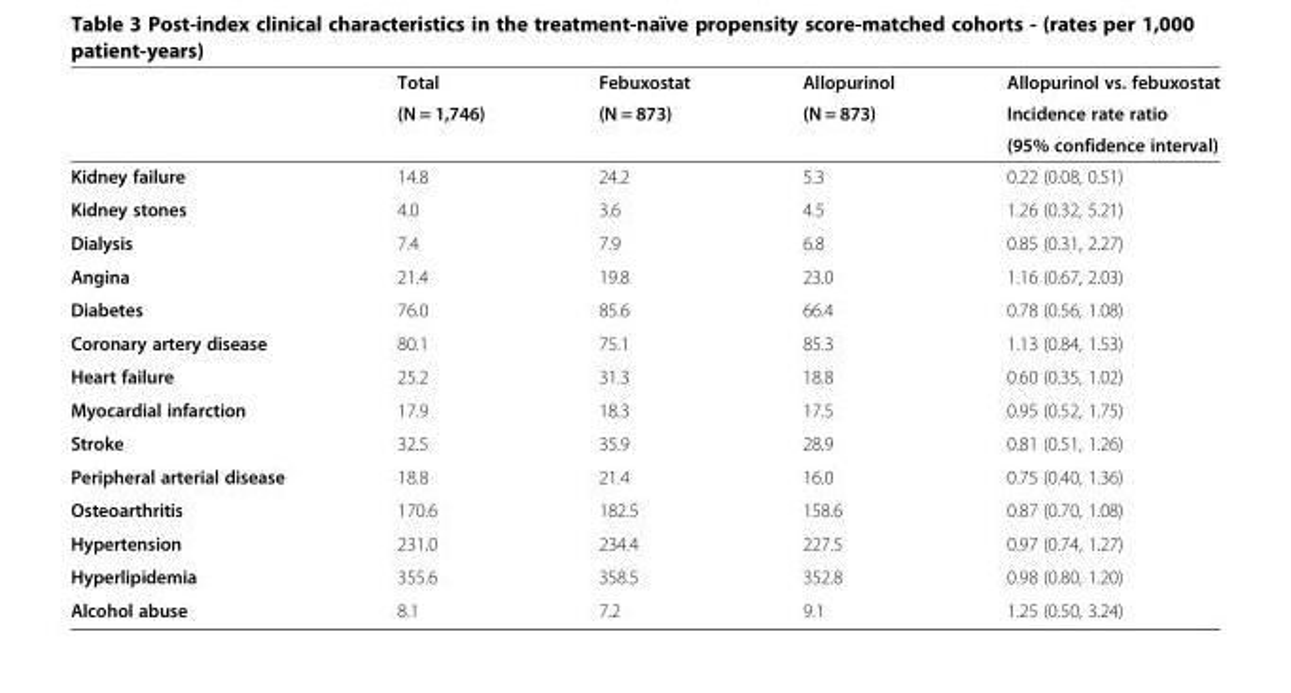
<table><thead><tr><td rowspan="3"></td><td rowspan="3">Total (N = 1,746)</td><td rowspan="3">Febuxostat (N = 873)</td><td rowspan="3">Allopurinol (N = 873)</td><td rowspan="3">Allopurinol vs. febuxostat Incidence rate ratio (95% confidence interval)</td></tr><tr></tr><tr></tr></thead><tbody><tr><td>Kidney failure</td><td>14.8</td><td>24.2</td><td>5.3</td><td>0.22 (0.08, 0.51)</td></tr><tr><td>Kidney stones</td><td>4.0</td><td>3.6</td><td>4.5</td><td>1.26 (0.32, 5.21)</td></tr><tr><td>Dialysis</td><td>7.4</td><td>7.9</td><td>6.8</td><td>0.85 (0.31, 2.27)</td></tr><tr><td>Angina</td><td>21.4</td><td>19.8</td><td>23.0</td><td>1.16 (0.67, 2.03)</td></tr><tr><td>Diabetes</td><td>76.0</td><td>85.6</td><td>66.4</td><td>0.78 (0.56, 1.08)</td></tr><tr><td>Coronary artery disease</td><td>80.1</td><td>75.1</td><td>85.3</td><td>1.13 (0.84, 1.53)</td></tr><tr><td>Heart failure</td><td>25.2</td><td>31.3</td><td>18.8</td><td>0.60 (0.35, 1.02)</td></tr><tr><td>Myocardial infarction</td><td>17.9</td><td>18.3</td><td>17.5</td><td>0.95 (0.52, 1.75)</td></tr><tr><td>Stroke</td><td>32.5</td><td>35.9</td><td>28.9</td><td>0.81 (0.51, 1.26)</td></tr><tr><td>Peripheral arterial disease</td><td>18.8</td><td>21.4</td><td>16.0</td><td>0.75 (0.40, 1.36)</td></tr><tr><td>Osteoarthritis</td><td>170.6</td><td>182.5</td><td>158.6</td><td>0.87 (0.70, 1.08)</td></tr><tr><td>Hypertension</td><td>231.0</td><td>234.4</td><td>227.5</td><td>0.97 (0.74, 1.27)</td></tr><tr><td>Hyperlipidemia</td><td>355.6</td><td>358.5</td><td>352.8</td><td>0.98 (0.80, 1.20)</td></tr><tr><td>Alcohol abuse</td><td>8.1</td><td>7.2</td><td>9.1</td><td>1.25 (0.50, 3.24)</td></tr></tbody></table>